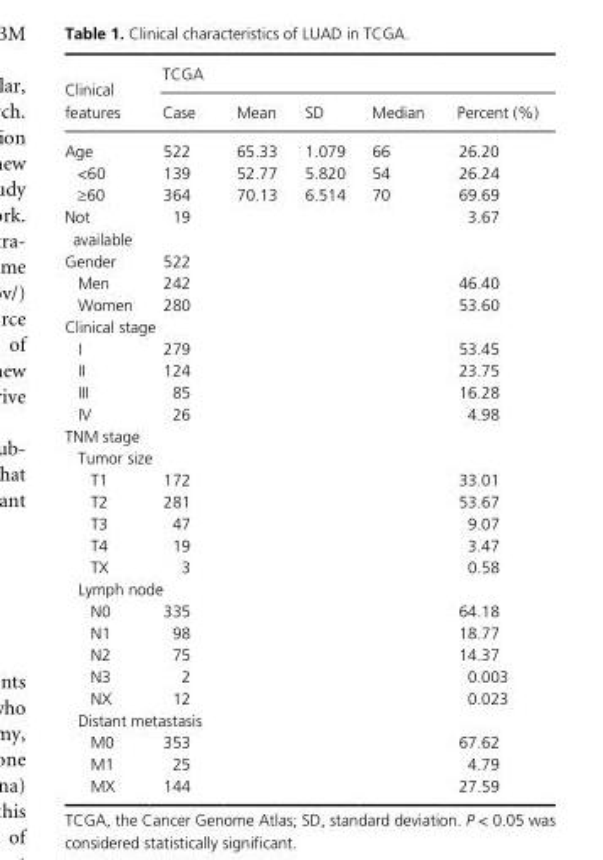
<table><thead><tr><td rowspan="2">Clinical features</td><td colspan="5">TCGA</td></tr><tr><td>Case</td><td>Mean</td><td>SD</td><td>Median</td><td>Percent (%)</td></tr></thead><tbody><tr><td>Age</td><td>522</td><td>65.33</td><td>1.079</td><td>66</td><td>26.20</td></tr><tr><td>&lt;60</td><td>139</td><td>52.77</td><td>5.820</td><td>54</td><td>26.24</td></tr><tr><td>≥60</td><td>364</td><td>70.13</td><td>6.514</td><td>70</td><td>69.69</td></tr><tr><td>Not available</td><td>19</td><td></td><td></td><td></td><td>3.67</td></tr><tr><td>Gender</td><td>522</td><td></td><td></td><td></td><td></td></tr><tr><td>Men</td><td>242</td><td></td><td></td><td></td><td>46.40</td></tr><tr><td>Women</td><td>280</td><td></td><td></td><td></td><td>53.60</td></tr><tr><td colspan="6">Clinical stage</td></tr><tr><td>I</td><td>279</td><td></td><td></td><td></td><td>53.45</td></tr><tr><td>II</td><td>124</td><td></td><td></td><td></td><td>23.75</td></tr><tr><td>III</td><td>85</td><td></td><td></td><td></td><td>16.28</td></tr><tr><td>IV</td><td>26</td><td></td><td></td><td></td><td>4.98</td></tr><tr><td colspan="6">TNM stage</td></tr><tr><td colspan="6">Tumor size</td></tr><tr><td>T1</td><td>172</td><td></td><td></td><td></td><td>33.01</td></tr><tr><td>T2</td><td>281</td><td></td><td></td><td></td><td>53.67</td></tr><tr><td>T3</td><td>47</td><td></td><td></td><td></td><td>9.07</td></tr><tr><td>T4</td><td>19</td><td></td><td></td><td></td><td>3.47</td></tr><tr><td>TX</td><td>3</td><td></td><td></td><td></td><td>0.58</td></tr><tr><td colspan="6">Lymph node</td></tr><tr><td>N0</td><td>335</td><td></td><td></td><td></td><td>64.18</td></tr><tr><td>N1</td><td>98</td><td></td><td></td><td></td><td>18.77</td></tr><tr><td>N2</td><td>75</td><td></td><td></td><td></td><td>14.37</td></tr><tr><td>N3</td><td>2</td><td></td><td></td><td></td><td>0.003</td></tr><tr><td>NX</td><td>12</td><td></td><td></td><td></td><td>0.023</td></tr><tr><td colspan="6">Distant metastasis</td></tr><tr><td>M0</td><td>353</td><td></td><td></td><td></td><td>67.62</td></tr><tr><td>M1</td><td>25</td><td></td><td></td><td></td><td>4.79</td></tr><tr><td>MX</td><td>144</td><td></td><td></td><td></td><td>27.59</td></tr></tbody></table>